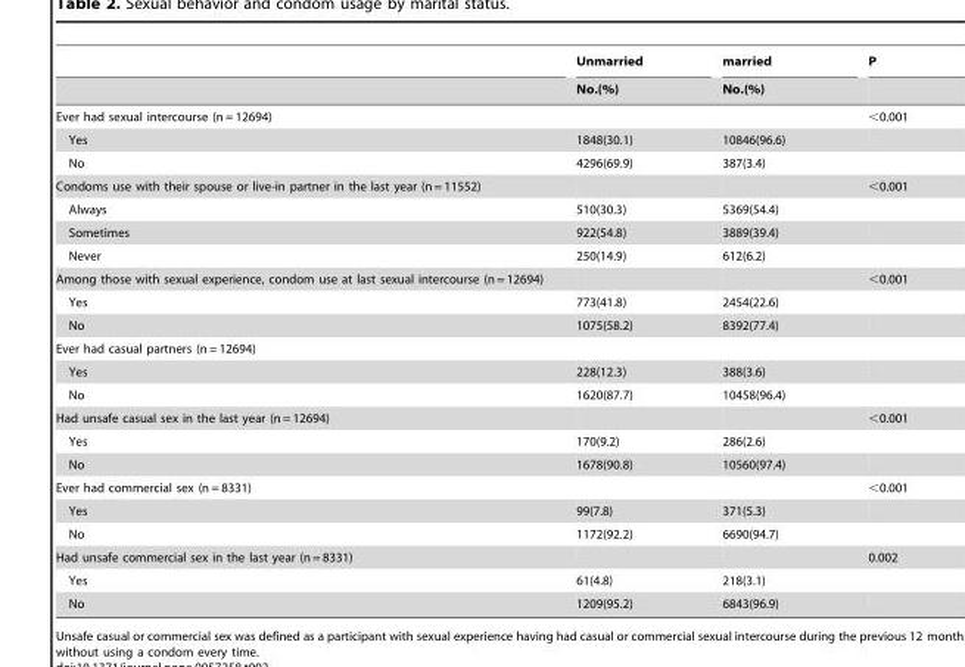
<table><thead><tr><td rowspan="2"></td><td rowspan="2">Unmarried No.(%)</td><td rowspan="2">married No.(%)</td><td rowspan="2">P</td></tr><tr></tr></thead><tbody><tr><td>Ever had sexual intercourse (n = 12694)</td><td></td><td></td><td>&lt;0.001</td></tr><tr><td>Yes</td><td>1848(30.1)</td><td>10846(96.6)</td><td></td></tr><tr><td>No</td><td>4296(69.9)</td><td>387(3.4)</td><td></td></tr><tr><td>Condoms use with their spouse or live-in partner in the last year (n = 11552)</td><td></td><td></td><td>&lt;0.001</td></tr><tr><td>Always</td><td>510(30.3)</td><td>5369(54.4)</td><td></td></tr><tr><td>Sometimes</td><td>922(54.8)</td><td>3889(39.4)</td><td></td></tr><tr><td>Never</td><td>250(14.9)</td><td>612(6.2)</td><td></td></tr><tr><td>Among those with sexual experience, condom use at last sexual intercourse (n = 12694)</td><td></td><td></td><td>&lt;0.001</td></tr><tr><td>Yes</td><td>773(41.8)</td><td>2454(22.6)</td><td></td></tr><tr><td>No</td><td>1075(58.2)</td><td>8392(77.4)</td><td></td></tr><tr><td colspan="4">Ever had casual partners (n = 12694)</td></tr><tr><td>Yes</td><td>228(12.3)</td><td>388(3.6)</td><td></td></tr><tr><td>No</td><td>1620(87.7)</td><td>10458(96.4)</td><td></td></tr><tr><td>Had unsafe casual sex in the last year (n = 12694)</td><td></td><td></td><td>&lt;0.001</td></tr><tr><td>Yes</td><td>170(9.2)</td><td>286(2.6)</td><td></td></tr><tr><td>No</td><td>1678(90.8)</td><td>10560(97.4)</td><td></td></tr><tr><td>Ever had commercial sex (n = 8331)</td><td></td><td></td><td>&lt;0.001</td></tr><tr><td>Yes</td><td>99(7.8)</td><td>371(5.3)</td><td></td></tr><tr><td>No</td><td>1172(92.2)</td><td>6690(94.7)</td><td></td></tr><tr><td>Had unsafe commercial sex in the last year (n = 8331)</td><td></td><td></td><td>0.002</td></tr><tr><td>Yes</td><td>61(4.8)</td><td>218(3.1)</td><td></td></tr><tr><td>No</td><td>1209(95.2)</td><td>6843(96.9)</td><td></td></tr></tbody></table>